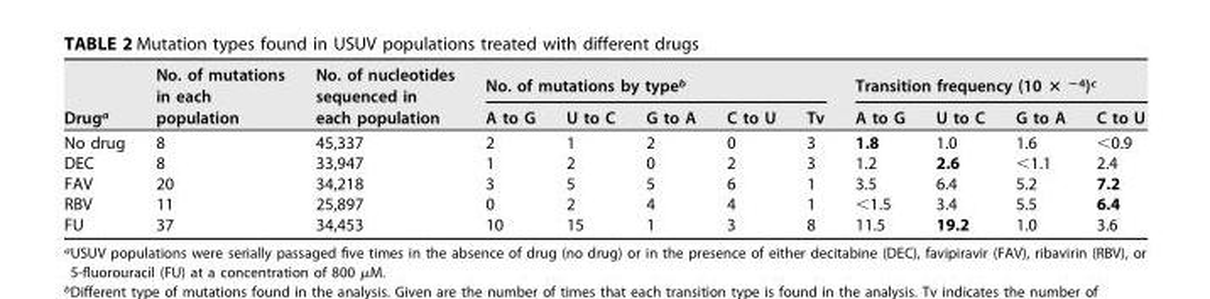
<table><thead><tr><td rowspan="2">Drug<sup>a</sup></td><td rowspan="2">No. of mutations in each population</td><td rowspan="2">No. of nucleotides sequenced in each population</td><td colspan="5">No. of mutations by type<sup>b</sup></td><td colspan="4">Transition frequency (10 × <sup>−4</sup>)<sup>c</sup></td></tr><tr><td>A to G</td><td>U to C</td><td>G to A</td><td>C to U</td><td>Tv</td><td>A to G</td><td>U to C</td><td>G to A</td><td>C to U</td></tr></thead><tbody><tr><td>No drug</td><td>8</td><td>45,337</td><td>2</td><td>1</td><td>2</td><td>0</td><td>3</td><td>1.8</td><td>1.0</td><td>1.6</td><td>&lt;0.9</td></tr><tr><td>DEC</td><td>8</td><td>33,947</td><td>1</td><td>2</td><td>0</td><td>2</td><td>3</td><td>1.2</td><td>2.6</td><td>&lt;1.1</td><td>2.4</td></tr><tr><td>FAV</td><td>20</td><td>34,218</td><td>3</td><td>5</td><td>5</td><td>6</td><td>1</td><td>3.5</td><td>6.4</td><td>5.2</td><td>7.2</td></tr><tr><td>RBV</td><td>11</td><td>25,897</td><td>0</td><td>2</td><td>4</td><td>4</td><td>1</td><td>&lt;1.5</td><td>3.4</td><td>5.5</td><td>6.4</td></tr><tr><td>FU</td><td>37</td><td>34,453</td><td>10</td><td>15</td><td>1</td><td>3</td><td>8</td><td>11.5</td><td>19.2</td><td>1.0</td><td>3.6</td></tr></tbody></table>